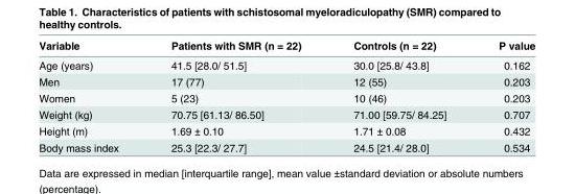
<table><thead><tr><td>Variable</td><td>Patients with SMR (n = 22)</td><td>Controls (n = 22)</td><td>P value</td></tr></thead><tbody><tr><td>Age (years)</td><td>41.5 [28.0/ 51.5]</td><td>30.0 [25.8/ 43.8]</td><td>0.162</td></tr><tr><td>Men</td><td>17 (77)</td><td>12 (55)</td><td>0.203</td></tr><tr><td>Women</td><td>5 (23)</td><td>10 (46)</td><td>0.203</td></tr><tr><td>Weight (kg)</td><td>70.75 [61.13/ 86.50]</td><td>71.00 [59.75/ 84.25]</td><td>0.707</td></tr><tr><td>Height (m)</td><td>1.69 ± 0.10</td><td>1.71 ± 0.08</td><td>0.432</td></tr><tr><td>Body mass index</td><td>25.3 [22.3/ 27.7]</td><td>24.5 [21.4/ 28.0]</td><td>0.534</td></tr></tbody></table>